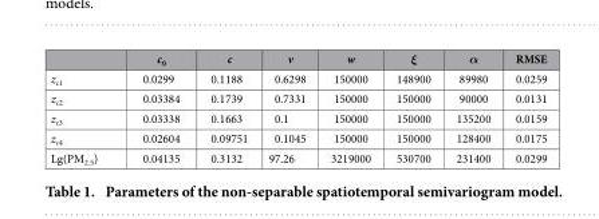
<table><thead><tr><td></td><td>c<sub>0</sub></td><td>c</td><td>v</td><td>w</td><td>ξ</td><td>α</td><td>RMSE</td></tr></thead><tbody><tr><td>z<sub>c1</sub></td><td>0.0299</td><td>0.1188</td><td>0.6298</td><td>150000</td><td>148900</td><td>89980</td><td>0.0259</td></tr><tr><td>z<sub>c2</sub></td><td>0.03384</td><td>0.1739</td><td>0.7331</td><td>150000</td><td>150000</td><td>90000</td><td>0.0131</td></tr><tr><td>z<sub>c3</sub></td><td>0.03338</td><td>0.1663</td><td>0.1</td><td>150000</td><td>150000</td><td>135200</td><td>0.0159</td></tr><tr><td>z<sub>c4</sub></td><td>0.02604</td><td>0.09751</td><td>0.1045</td><td>150000</td><td>150000</td><td>128400</td><td>0.0175</td></tr><tr><td>Lg(PM<sub>2.5</sub>)</td><td>0.04135</td><td>0.3132</td><td>97.26</td><td>3219000</td><td>530700</td><td>231400</td><td>0.0299</td></tr></tbody></table>